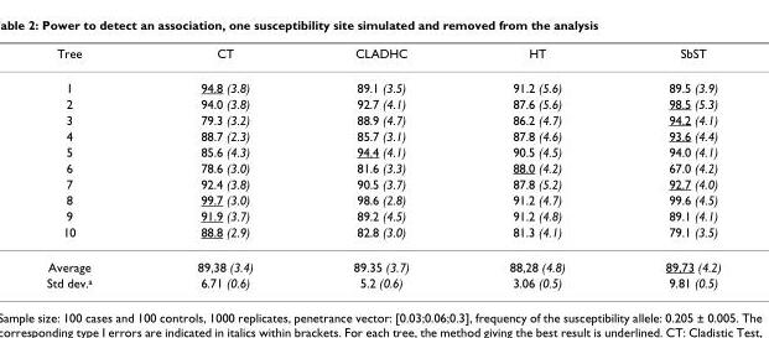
<table><thead><tr><td>Tree</td><td>CT</td><td>CLADHC</td><td>HT</td><td>SbST</td></tr></thead><tbody><tr><td>1</td><td>94.8 (3.8)</td><td>89.1 (3.5)</td><td>91.2 (5.6)</td><td>89.5 (3.9)</td></tr><tr><td>2</td><td>94.0 (3.8)</td><td>92.7 (4.1)</td><td>87.6 (5.6)</td><td>98.5 (5.3)</td></tr><tr><td>3</td><td>79.3 (3.2)</td><td>88.9 (4.7)</td><td>86.2 (4.7)</td><td>94.2 (4.1)</td></tr><tr><td>4</td><td>88.7 (2.3)</td><td>85.7 (3.1)</td><td>87.8 (4.6)</td><td>93.6 (4.4)</td></tr><tr><td>5</td><td>85.6 (4.3)</td><td>94.4 (4.1)</td><td>90.5 (4.5)</td><td>94.0 (4.1)</td></tr><tr><td>6</td><td>78.6 (3.0)</td><td>81.6 (3.3)</td><td>88.0 (4.2)</td><td>67.0 (4.2)</td></tr><tr><td>7</td><td>92.4 (3.8)</td><td>90.5 (3.7)</td><td>87.8 (5.2)</td><td>92.7 (4.0)</td></tr><tr><td>8</td><td>99.7 (3.0)</td><td>98.6 (2.8)</td><td>91.2 (4.7)</td><td>99.6 (4.5)</td></tr><tr><td>9</td><td>91.9 (3.7)</td><td>89.2 (4.5)</td><td>91.2 (4.8)</td><td>89.1 (4.1)</td></tr><tr><td>10</td><td>88.8 (2.9)</td><td>82.8 (3.0)</td><td>81.3 (4.1)</td><td>79.1 (3.5)</td></tr><tr><td>Average</td><td>89,38 (3.4)</td><td>89.35 (3.7)</td><td>88,28 (4.8)</td><td>89,73 (4.2)</td></tr><tr><td>Std dev.<sup>a</sup></td><td>6.71 (0.6)</td><td>5.2 (0.6)</td><td>3.06 (0.5)</td><td>9.81 (0.5)</td></tr></tbody></table>